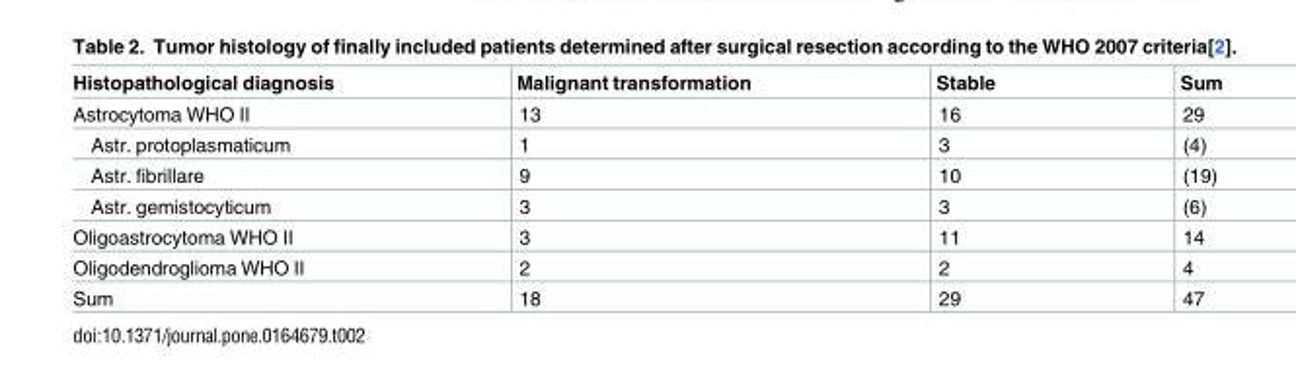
<table><thead><tr><td>Histopathological diagnosis</td><td>Malignant transformation</td><td>Stable</td><td>Sum</td></tr></thead><tbody><tr><td>Astrocytoma WHO II</td><td>13</td><td>16</td><td>29</td></tr><tr><td>Astr. protoplasmaticum</td><td>1</td><td>3</td><td>(4)</td></tr><tr><td>Astr. fibrillare</td><td>9</td><td>10</td><td>(19)</td></tr><tr><td>Astr. gemistocyticum</td><td>3</td><td>3</td><td>(6)</td></tr><tr><td>Oligoastrocytoma WHO II</td><td>3</td><td>11</td><td>14</td></tr><tr><td>Oligodendroglioma WHO II</td><td>2</td><td>2</td><td>4</td></tr><tr><td>Sum</td><td>18</td><td>29</td><td>47</td></tr></tbody></table>